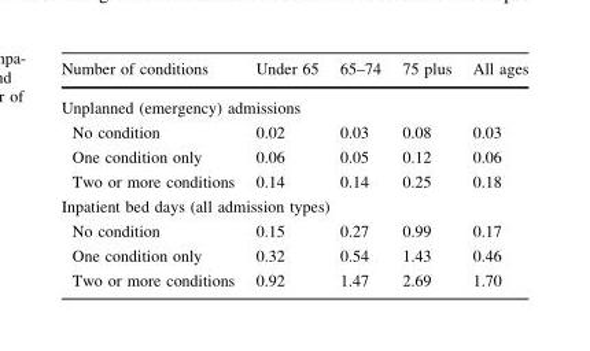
<table><thead><tr><td>Number of conditions</td><td>Under 65</td><td>65–74</td><td>75 plus</td><td>All ages</td></tr></thead><tbody><tr><td colspan="5">Unplanned (emergency) admissions</td></tr><tr><td>No condition</td><td>0.02</td><td>0.03</td><td>0.08</td><td>0.03</td></tr><tr><td>One condition only</td><td>0.06</td><td>0.05</td><td>0.12</td><td>0.06</td></tr><tr><td>Two or more conditions</td><td>0.14</td><td>0.14</td><td>0.25</td><td>0.18</td></tr><tr><td colspan="5">Inpatient bed days (all admission types)</td></tr><tr><td>No condition</td><td>0.15</td><td>0.27</td><td>0.99</td><td>0.17</td></tr><tr><td>One condition only</td><td>0.32</td><td>0.54</td><td>1.43</td><td>0.46</td></tr><tr><td>Two or more conditions</td><td>0.92</td><td>1.47</td><td>2.69</td><td>1.70</td></tr></tbody></table>